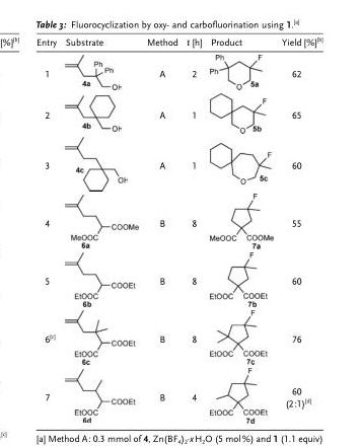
<table><thead><tr><td>Entry</td><td>Substrate</td><td>Method</td><td>t [h]</td><td>Product</td><td>Yield [%]<sup>[b]</sup></td></tr></thead><tbody><tr><td>1</td><td></td><td>A</td><td>2</td><td></td><td>62</td></tr><tr><td>2</td><td></td><td>A</td><td>1</td><td></td><td>65</td></tr><tr><td>3</td><td></td><td>A</td><td>1</td><td></td><td>60</td></tr><tr><td>4</td><td></td><td>B</td><td>8</td><td></td><td>55</td></tr><tr><td>5</td><td></td><td>B</td><td>8</td><td></td><td>60</td></tr><tr><td>6<sup>[c]</sup></td><td></td><td>B</td><td>8</td><td></td><td>76</td></tr><tr><td>7</td><td></td><td>B</td><td>4</td><td></td><td>60 (2:1)<sup>[d]</sup></td></tr></tbody></table>